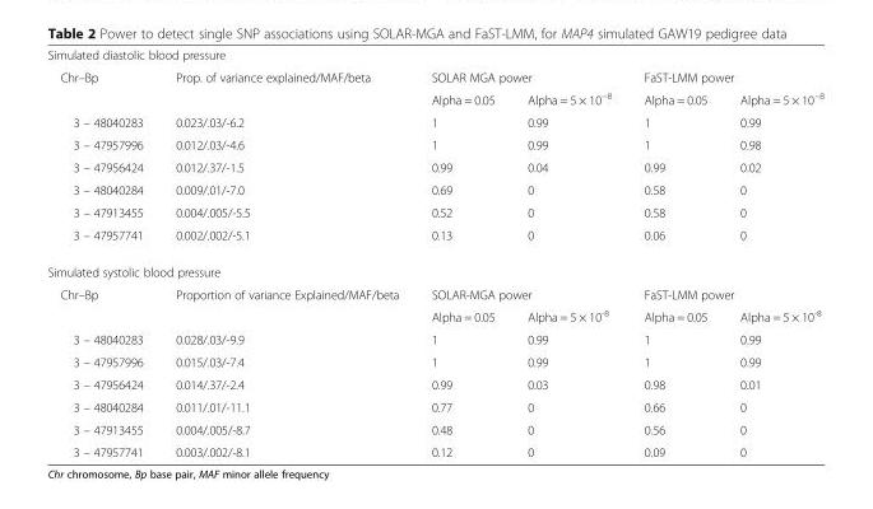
<table><tbody><tr><td colspan="6">Simulated diastolic blood pressure</td></tr><tr><td rowspan="2">Chr–Bp</td><td rowspan="2">Prop. of variance explained/MAF/beta</td><td colspan="2">SOLAR MGA power</td><td colspan="2">FaST-LMM power</td></tr><tr><td>Alpha = 0.05</td><td>Alpha = 5 × 10<sup>−8</sup></td><td>Alpha = 0.05</td><td>Alpha = 5 × 10<sup>−8</sup></td></tr><tr><td>3 – 48040283</td><td>0.023/.03/-6.2</td><td>1</td><td>0.99</td><td>1</td><td>0.99</td></tr><tr><td>3 – 47957996</td><td>0.012/.03/-4.6</td><td>1</td><td>0.99</td><td>1</td><td>0.98</td></tr><tr><td>3 – 47956424</td><td>0.012/.37/-1.5</td><td>0.99</td><td>0.04</td><td>0.99</td><td>0.02</td></tr><tr><td>3 – 48040284</td><td>0.009/.01/-7.0</td><td>0.69</td><td>0</td><td>0.58</td><td>0</td></tr><tr><td>3 – 47913455</td><td>0.004/.005/-5.5</td><td>0.52</td><td>0</td><td>0.58</td><td>0</td></tr><tr><td>3 – 47957741</td><td>0.002/.002/-5.1</td><td>0.13</td><td>0</td><td>0.06</td><td>0</td></tr><tr><td colspan="6">Simulated systolic blood pressure</td></tr><tr><td rowspan="2">Chr–Bp</td><td rowspan="2">Proportion of variance Explained/MAF/beta</td><td colspan="2">SOLAR-MGA power</td><td colspan="2">FaST-LMM power</td></tr><tr><td>Alpha = 0.05</td><td>Alpha = 5 × 10<sup>-8</sup></td><td>Alpha = 0.05</td><td>Alpha = 5 × 10<sup>-8</sup></td></tr><tr><td>3 – 48040283</td><td>0.028/.03/-9.9</td><td>1</td><td>0.99</td><td>1</td><td>0.99</td></tr><tr><td>3 – 47957996</td><td>0.015/.03/-7.4</td><td>1</td><td>0.99</td><td>1</td><td>0.99</td></tr><tr><td>3 – 47956424</td><td>0.014/.37/-2.4</td><td>0.99</td><td>0.03</td><td>0.98</td><td>0.01</td></tr><tr><td>3 – 48040284</td><td>0.011/.01/-11.1</td><td>0.77</td><td>0</td><td>0.66</td><td>0</td></tr><tr><td>3 – 47913455</td><td>0.004/.005/-8.7</td><td>0.48</td><td>0</td><td>0.56</td><td>0</td></tr><tr><td>3 – 47957741</td><td>0.003/.002/-8.1</td><td>0.12</td><td>0</td><td>0.09</td><td>0</td></tr></tbody></table>